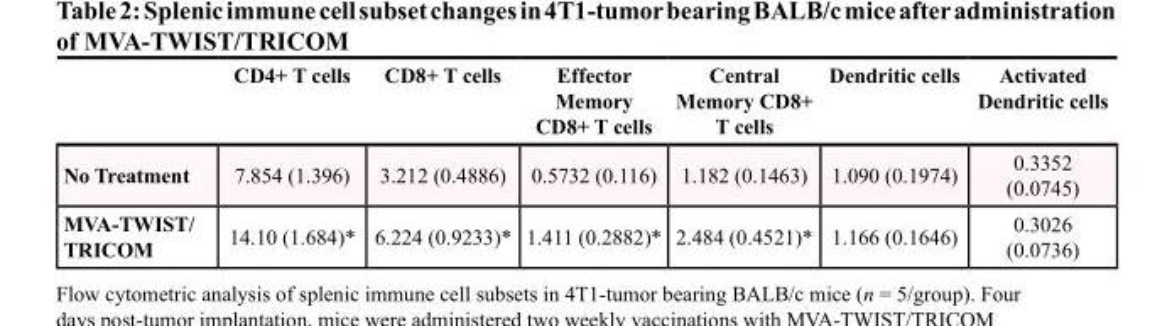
<table><thead><tr><td></td><td>CD4+ T cells</td><td>CD8+ T cells</td><td>Effector Memory CD8+ T cells</td><td>Central Memory CD8+ T cells</td><td>Dendritic cells</td><td>Activated Dendritic cells</td></tr></thead><tbody><tr><td>No Treatment</td><td>7.854 (1.396)</td><td>3.212 (0.4886)</td><td>0.5732 (0.116)</td><td>1.182 (0.1463)</td><td>1.090 (0.1974)</td><td>0.3352 (0.0745)</td></tr><tr><td>MVA-TWIST/ TRICOM</td><td>14.10 (1.684)*</td><td>6.224 (0.9233)*</td><td>1.411 (0.2882)*</td><td>2.484 (0.4521)*</td><td>1.166 (0.1646)</td><td>0.3026 (0.0736)</td></tr></tbody></table>